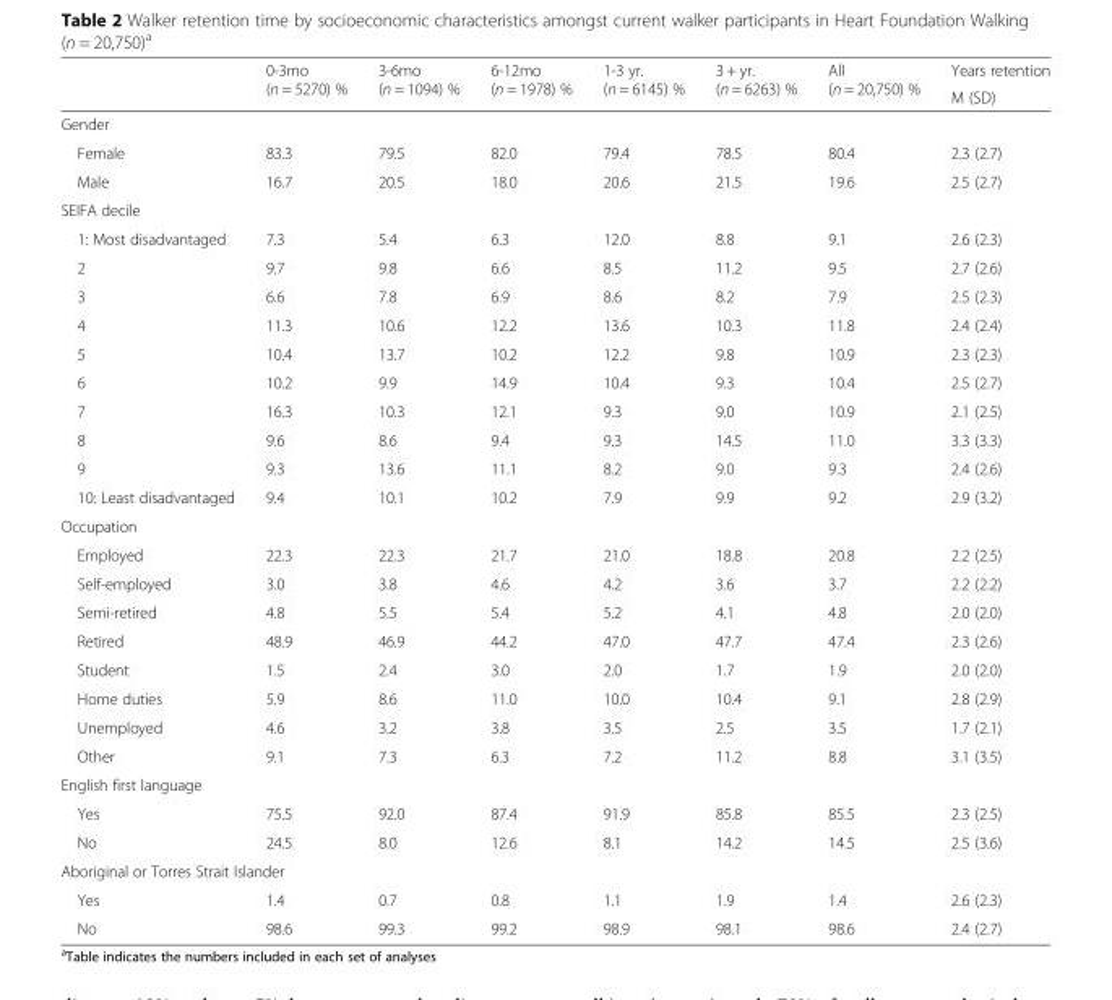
<table><thead><tr><td rowspan="2"></td><td rowspan="2">0-3mo (n = 5270) %</td><td rowspan="2">3-6mo (n = 1094) %</td><td rowspan="2">6-12mo (n = 1978) %</td><td rowspan="2">1-3 yr. (n = 6145) %</td><td rowspan="2">3 + yr. (n = 6263) %</td><td rowspan="2">All (n = 20,750) %</td><td rowspan="2">Years retention M (SD)</td></tr><tr></tr></thead><tbody><tr><td colspan="8">Gender</td></tr><tr><td>Female</td><td>83.3</td><td>79.5</td><td>82.0</td><td>79.4</td><td>78.5</td><td>80.4</td><td>2.3 (2.7)</td></tr><tr><td>Male</td><td>16.7</td><td>20.5</td><td>18.0</td><td>20.6</td><td>21.5</td><td>19.6</td><td>2.5 (2.7)</td></tr><tr><td colspan="8">SEIFA decile</td></tr><tr><td>1: Most disadvantaged</td><td>7.3</td><td>5.4</td><td>6.3</td><td>12.0</td><td>8.8</td><td>9.1</td><td>2.6 (2.3)</td></tr><tr><td>2</td><td>9.7</td><td>9.8</td><td>6.6</td><td>8.5</td><td>11.2</td><td>9.5</td><td>2.7 (2.6)</td></tr><tr><td>3</td><td>6.6</td><td>7.8</td><td>6.9</td><td>8.6</td><td>8.2</td><td>7.9</td><td>2.5 (2.3)</td></tr><tr><td>4</td><td>11.3</td><td>10.6</td><td>12.2</td><td>13.6</td><td>10.3</td><td>11.8</td><td>2.4 (2.4)</td></tr><tr><td>5</td><td>10.4</td><td>13.7</td><td>10.2</td><td>12.2</td><td>9.8</td><td>10.9</td><td>2.3 (2.3)</td></tr><tr><td>6</td><td>10.2</td><td>9.9</td><td>14.9</td><td>10.4</td><td>9.3</td><td>10.4</td><td>2.5 (2.7)</td></tr><tr><td>7</td><td>16.3</td><td>10.3</td><td>12.1</td><td>9.3</td><td>9.0</td><td>10.9</td><td>2.1 (2.5)</td></tr><tr><td>8</td><td>9.6</td><td>8.6</td><td>9.4</td><td>9.3</td><td>14.5</td><td>11.0</td><td>3.3 (3.3)</td></tr><tr><td>9</td><td>9.3</td><td>13.6</td><td>11.1</td><td>8.2</td><td>9.0</td><td>9.3</td><td>2.4 (2.6)</td></tr><tr><td>10: Least disadvantaged</td><td>9.4</td><td>10.1</td><td>10.2</td><td>7.9</td><td>9.9</td><td>9.2</td><td>2.9 (3.2)</td></tr><tr><td colspan="8">Occupation</td></tr><tr><td>Employed</td><td>22.3</td><td>22.3</td><td>21.7</td><td>21.0</td><td>18.8</td><td>20.8</td><td>2.2 (2.5)</td></tr><tr><td>Self-employed</td><td>3.0</td><td>3.8</td><td>4.6</td><td>4.2</td><td>3.6</td><td>3.7</td><td>2.2 (2.2)</td></tr><tr><td>Semi-retired</td><td>4.8</td><td>5.5</td><td>5.4</td><td>5.2</td><td>4.1</td><td>4.8</td><td>2.0 (2.0)</td></tr><tr><td>Retired</td><td>48.9</td><td>46.9</td><td>44.2</td><td>47.0</td><td>47.7</td><td>47.4</td><td>2.3 (2.6)</td></tr><tr><td>Student</td><td>1.5</td><td>2.4</td><td>3.0</td><td>2.0</td><td>1.7</td><td>1.9</td><td>2.0 (2.0)</td></tr><tr><td>Home duties</td><td>5.9</td><td>8.6</td><td>11.0</td><td>10.0</td><td>10.4</td><td>9.1</td><td>2.8 (2.9)</td></tr><tr><td>Unemployed</td><td>4.6</td><td>3.2</td><td>3.8</td><td>3.5</td><td>2.5</td><td>3.5</td><td>1.7 (2.1)</td></tr><tr><td>Other</td><td>9.1</td><td>7.3</td><td>6.3</td><td>7.2</td><td>11.2</td><td>8.8</td><td>3.1 (3.5)</td></tr><tr><td colspan="8">English first language</td></tr><tr><td>Yes</td><td>75.5</td><td>92.0</td><td>87.4</td><td>91.9</td><td>85.8</td><td>85.5</td><td>2.3 (2.5)</td></tr><tr><td>No</td><td>24.5</td><td>8.0</td><td>12.6</td><td>8.1</td><td>14.2</td><td>14.5</td><td>2.5 (3.6)</td></tr><tr><td colspan="8">Aboriginal or Torres Strait Islander</td></tr><tr><td>Yes</td><td>1.4</td><td>0.7</td><td>0.8</td><td>1.1</td><td>1.9</td><td>1.4</td><td>2.6 (2.3)</td></tr><tr><td>No</td><td>98.6</td><td>99.3</td><td>99.2</td><td>98.9</td><td>98.1</td><td>98.6</td><td>2.4 (2.7)</td></tr></tbody></table>